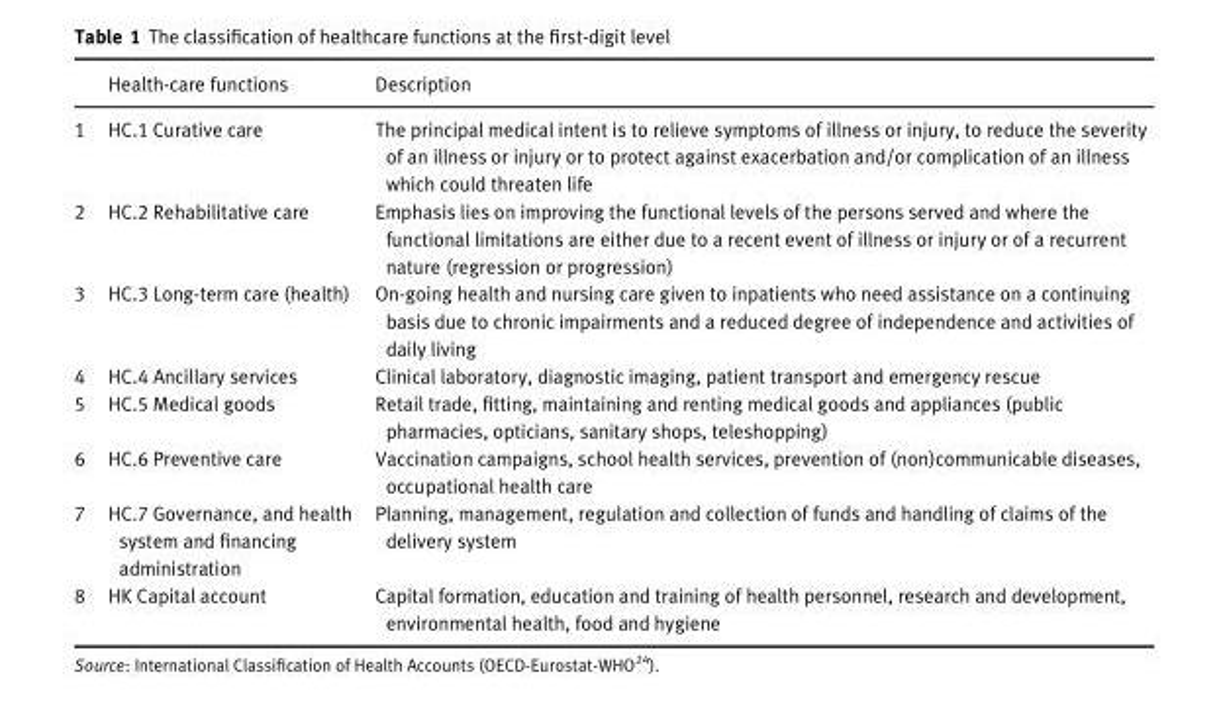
<table><thead><tr><td></td><td>Health-care functions</td><td>Description</td></tr></thead><tbody><tr><td>1</td><td>HC.1 Curative care</td><td>The principal medical intent is to relieve symptoms of illness or injury, to reduce the severity of an illness or injury or to protect against exacerbation and/or complication of an illness which could threaten life</td></tr><tr><td>2</td><td>HC.2 Rehabilitative care</td><td>Emphasis lies on improving the functional levels of the persons served and where the functional limitations are either due to a recent event of illness or injury or of a recurrent nature (regression or progression)</td></tr><tr><td>3</td><td>HC.3 Long-term care (health)</td><td>On-going health and nursing care given to inpatients who need assistance on a continuing basis due to chronic impairments and a reduced degree of independence and activities of daily living</td></tr><tr><td>4</td><td>HC.4 Ancillary services</td><td>Clinical laboratory, diagnostic imaging, patient transport and emergency rescue</td></tr><tr><td>5</td><td>HC.5 Medical goods</td><td>Retail trade, fitting, maintaining and renting medical goods and appliances (public pharmacies, opticians, sanitary shops, teleshopping)</td></tr><tr><td>6</td><td>HC.6 Preventive care</td><td>Vaccination campaigns, school health services, prevention of (non)communicable diseases, occupational health care</td></tr><tr><td>7</td><td>HC.7 Governance, and health system and financing administration</td><td>Planning, management, regulation and collection of funds and handling of claims of the delivery system</td></tr><tr><td>8</td><td>HK Capital account</td><td>Capital formation, education and training of health personnel, research and development, environmental health, food and hygiene</td></tr></tbody></table>